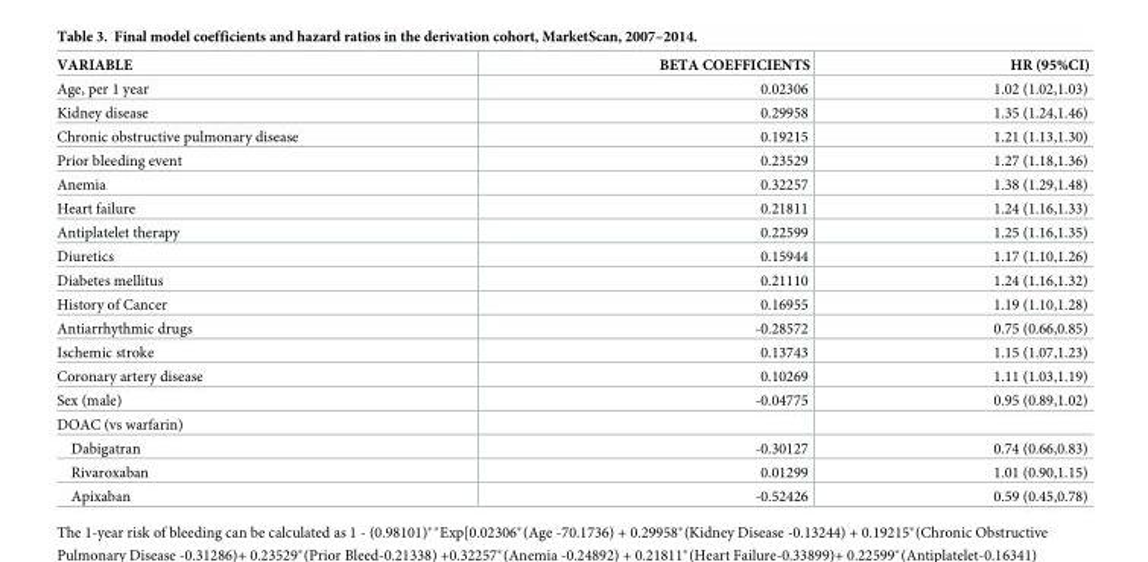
<table><thead><tr><td>VARIABLE</td><td>BETA COEFFICIENTS</td><td>HR (95%CI)</td></tr></thead><tbody><tr><td>Age, per 1 year</td><td>0.02306</td><td>1.02 (1.02,1.03)</td></tr><tr><td>Kidney disease</td><td>0.29958</td><td>1.35 (1.24,1.46)</td></tr><tr><td>Chronic obstructive pulmonary disease</td><td>0.19215</td><td>1.21 (1.13,1.30)</td></tr><tr><td>Prior bleeding event</td><td>0.23529</td><td>1.27 (1.18,1.36)</td></tr><tr><td>Anemia</td><td>0.32257</td><td>1.38 (1.29,1.48)</td></tr><tr><td>Heart failure</td><td>0.21811</td><td>1.24 (1.16,1.33)</td></tr><tr><td>Antiplatelet therapy</td><td>0.22599</td><td>1.25 (1.16,1.35)</td></tr><tr><td>Diuretics</td><td>0.15944</td><td>1.17 (1.10,1.26)</td></tr><tr><td>Diabetes mellitus</td><td>0.21110</td><td>1.24 (1.16,1.32)</td></tr><tr><td>History of Cancer</td><td>0.16955</td><td>1.19 (1.10,1.28)</td></tr><tr><td>Antiarrhythmic drugs</td><td>-0.28572</td><td>0.75 (0.66,0.85)</td></tr><tr><td>Ischemic stroke</td><td>0.13743</td><td>1.15 (1.07,1.23)</td></tr><tr><td>Coronary artery disease</td><td>0.10269</td><td>1.11 (1.03,1.19)</td></tr><tr><td>Sex (male)</td><td>-0.04775</td><td>0.95 (0.89,1.02)</td></tr><tr><td colspan="3">DOAC (vs warfarin)</td></tr><tr><td>Dabigatran</td><td>-0.30127</td><td>0.74 (0.66,0.83)</td></tr><tr><td>Rivaroxaban</td><td>0.01299</td><td>1.01 (0.90,1.15)</td></tr><tr><td>Apixaban</td><td>-0.52426</td><td>0.59 (0.45,0.78)</td></tr></tbody></table>